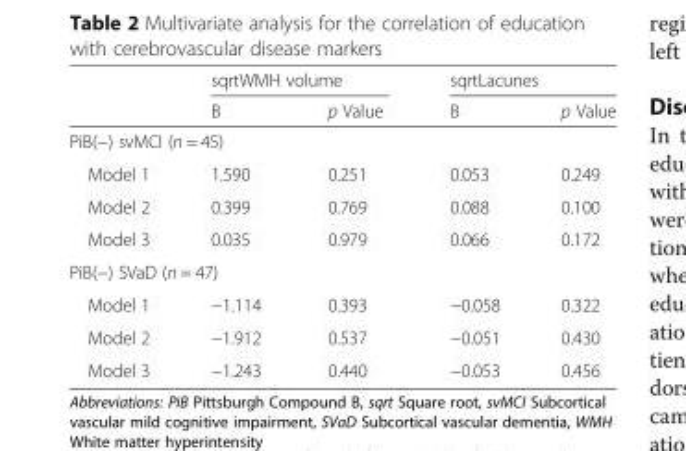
<table><thead><tr><td rowspan="2"></td><td colspan="2">sqrtWMH volume</td><td colspan="2">sqrtLacunes</td></tr><tr><td>B</td><td>p Value</td><td>B</td><td>p Value</td></tr></thead><tbody><tr><td colspan="5">PiB(−) svMCI (n = 45)</td></tr><tr><td>Model 1</td><td>1.590</td><td>0.251</td><td>0.053</td><td>0.249</td></tr><tr><td>Model 2</td><td>0.399</td><td>0.769</td><td>0.088</td><td>0.100</td></tr><tr><td>Model 3</td><td>0.035</td><td>0.979</td><td>0.066</td><td>0.172</td></tr><tr><td colspan="5">PiB(−) SVaD (n = 47)</td></tr><tr><td>Model 1</td><td>−1.114</td><td>0.393</td><td>−0.058</td><td>0.322</td></tr><tr><td>Model 2</td><td>−1.912</td><td>0.537</td><td>−0.051</td><td>0.430</td></tr><tr><td>Model 3</td><td>−1.243</td><td>0.440</td><td>−0.053</td><td>0.456</td></tr></tbody></table>